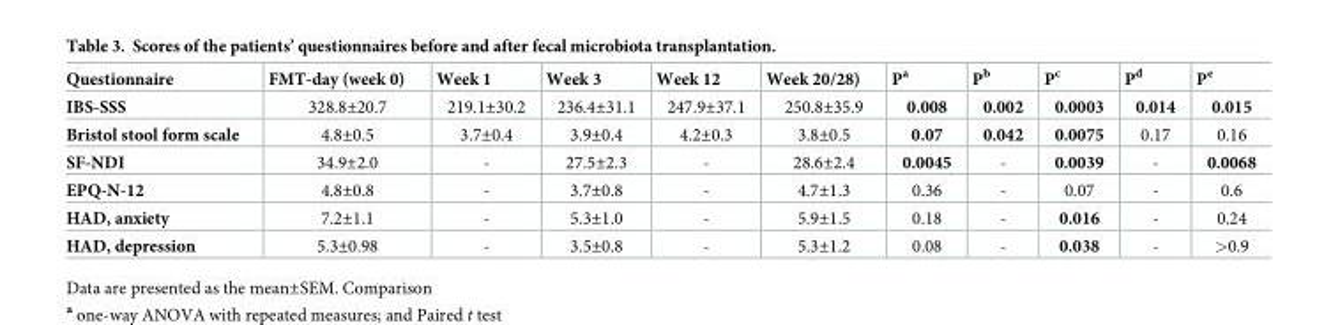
<table><thead><tr><td>Questionnaire</td><td>FMT-day (week 0)</td><td>Week 1</td><td>Week 3</td><td>Week 12</td><td>Week 20/28)</td><td>P<sup>a</sup></td><td>P<sup>b</sup></td><td>P<sup>c</sup></td><td>P<sup>d</sup></td><td>P<sup>e</sup></td></tr></thead><tbody><tr><td>IBS-SSS</td><td>328.8±20.7</td><td>219.1±30.2</td><td>236.4±31.1</td><td>247.9±37.1</td><td>250.8±35.9</td><td>0.008</td><td>0.002</td><td>0.0003</td><td>0.014</td><td>0.015</td></tr><tr><td>Bristol stool form scale</td><td>4.8±0.5</td><td>3.7±0.4</td><td>3.9±0.4</td><td>4.2±0.3</td><td>3.8±0.5</td><td>0.07</td><td>0.042</td><td>0.0075</td><td>0.17</td><td>0.16</td></tr><tr><td>SF-NDI</td><td>34.9±2.0</td><td>-</td><td>27.5±2.3</td><td>-</td><td>28.6±2.4</td><td>0.0045</td><td>-</td><td>0.0039</td><td>-</td><td>0.0068</td></tr><tr><td>EPQ-N-12</td><td>4.8±0.8</td><td>-</td><td>3.7±0.8</td><td>-</td><td>4.7±1.3</td><td>0.36</td><td>-</td><td>0.07</td><td>-</td><td>0.6</td></tr><tr><td>HAD, anxiety</td><td>7.2±1.1</td><td>-</td><td>5.3±1.0</td><td>-</td><td>5.9±1.5</td><td>0.18</td><td>-</td><td>0.016</td><td>-</td><td>0.24</td></tr><tr><td>HAD, depression</td><td>5.3±0.98</td><td>-</td><td>3.5±0.8</td><td>-</td><td>5.3±1.2</td><td>0.08</td><td>-</td><td>0.038</td><td>-</td><td>&gt;0.9</td></tr></tbody></table>